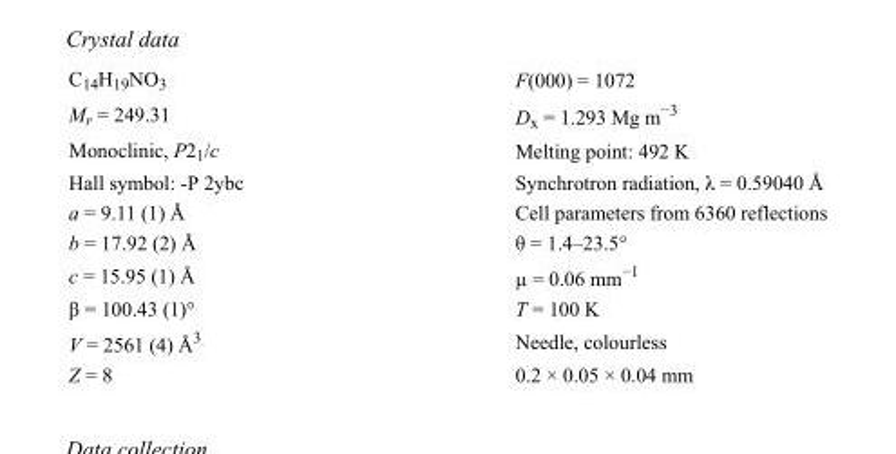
<table><tbody><tr><td>C<sub>14</sub>H<sub>19</sub>NO<sub>3</sub></td><td>F(000) = 1072</td></tr><tr><td>M<sub>r</sub> = 249.31</td><td>D<sub>x</sub> = 1.293 Mg m<sup>−3</sup></td></tr><tr><td>Monoclinic, P2<sub>1</sub>/c</td><td>Melting point: 492 K</td></tr><tr><td>Hall symbol: -P 2ybc</td><td>Synchrotron radiation, λ = 0.59040 Å</td></tr><tr><td>a = 9.11 (1) Å</td><td>Cell parameters from 6360 reflections</td></tr><tr><td>b = 17.92 (2) Å</td><td>θ = 1.4–23.5°</td></tr><tr><td>c = 15.95 (1) Å</td><td>µ = 0.06 mm<sup>−1</sup></td></tr><tr><td>β = 100.43 (1)°</td><td>T = 100 K</td></tr><tr><td>V = 2561 (4) Å<sup>3</sup></td><td>Needle, colourless</td></tr><tr><td>Z = 8</td><td>0.2 × 0.05 × 0.04 mm</td></tr></tbody></table>